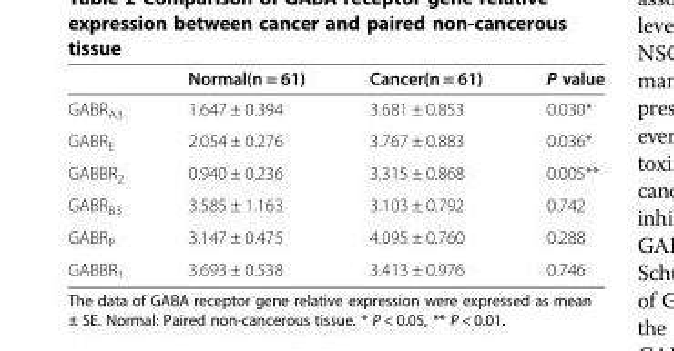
<table><thead><tr><td></td><td>Normal(n = 61)</td><td>Cancer(n = 61)</td><td>P value</td></tr></thead><tbody><tr><td>GABR<sub>A3</sub></td><td>1.647 ± 0.394</td><td>3.681 ± 0.853</td><td>0.030*</td></tr><tr><td>GABR<sub>E</sub></td><td>2.054 ± 0.276</td><td>3.767 ± 0.883</td><td>0.036*</td></tr><tr><td>GABBR<sub>2</sub></td><td>0.940 ± 0.236</td><td>3.315 ± 0.868</td><td>0.005**</td></tr><tr><td>GABR<sub>B3</sub></td><td>3.585 ± 1.163</td><td>3.103 ± 0.792</td><td>0.742</td></tr><tr><td>GABR<sub>P</sub></td><td>3.147 ± 0.475</td><td>4.095 ± 0.760</td><td>0.288</td></tr><tr><td>GABBR<sub>1</sub></td><td>3.693 ± 0.538</td><td>3.413 ± 0.976</td><td>0.746</td></tr></tbody></table>